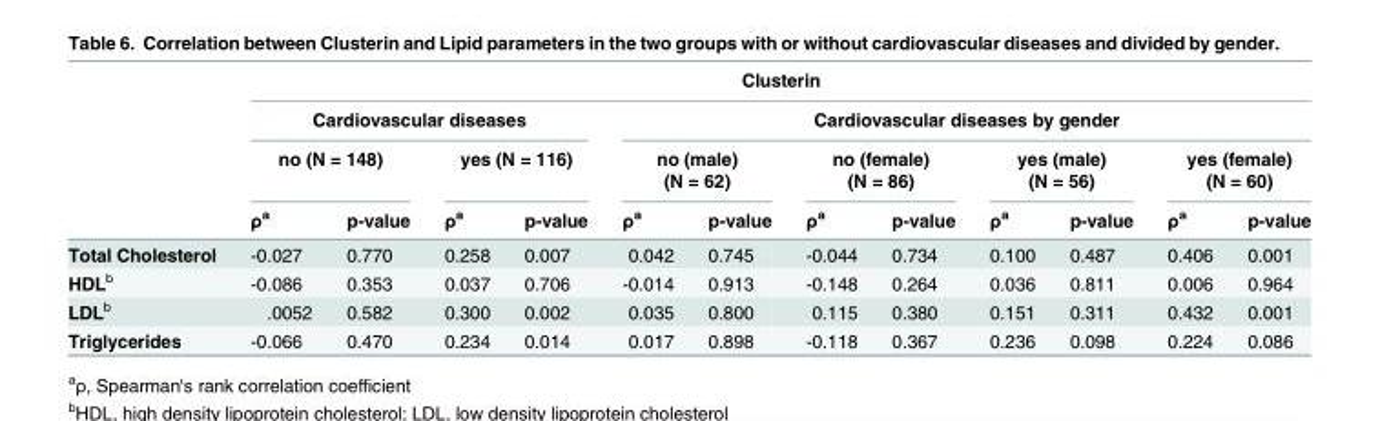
<table><thead><tr><td rowspan="4"></td><td colspan="12">Clusterin</td></tr><tr><td colspan="4">Cardiovascular diseases</td><td colspan="8">Cardiovascular diseases by gender</td></tr><tr><td colspan="2">no (N = 148)</td><td colspan="2">yes (N = 116)</td><td colspan="2">no (male) (N = 62)</td><td colspan="2">no (female) (N = 86)</td><td colspan="2">yes (male) (N = 56)</td><td colspan="2">yes (female) (N = 60)</td></tr><tr><td>ρ<sup>a</sup></td><td>p-value</td><td>ρ<sup>a</sup></td><td>p-value</td><td>ρ<sup>a</sup></td><td>p-value</td><td>ρ<sup>a</sup></td><td>p-value</td><td>ρ<sup>a</sup></td><td>p-value</td><td>ρ<sup>a</sup></td><td>p-value</td></tr></thead><tbody><tr><td>Total Cholesterol</td><td>-0.027</td><td>0.770</td><td>0.258</td><td>0.007</td><td>0.042</td><td>0.745</td><td>-0.044</td><td>0.734</td><td>0.100</td><td>0.487</td><td>0.406</td><td>0.001</td></tr><tr><td>HDL<sup>b</sup></td><td>-0.086</td><td>0.353</td><td>0.037</td><td>0.706</td><td>-0.014</td><td>0.913</td><td>-0.148</td><td>0.264</td><td>0.036</td><td>0.811</td><td>0.006</td><td>0.964</td></tr><tr><td>LDL<sup>b</sup></td><td>.0052</td><td>0.582</td><td>0.300</td><td>0.002</td><td>0.035</td><td>0.800</td><td>0.115</td><td>0.380</td><td>0.151</td><td>0.311</td><td>0.432</td><td>0.001</td></tr><tr><td>Triglycerides</td><td>-0.066</td><td>0.470</td><td>0.234</td><td>0.014</td><td>0.017</td><td>0.898</td><td>-0.118</td><td>0.367</td><td>0.236</td><td>0.098</td><td>0.224</td><td>0.086</td></tr></tbody></table>